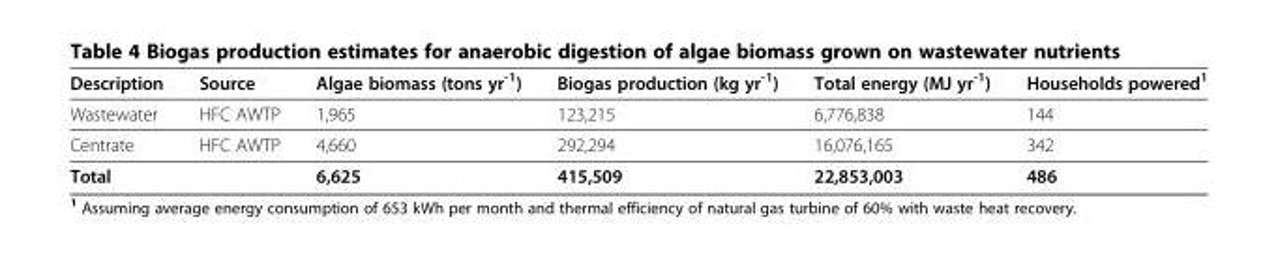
<table><thead><tr><td>Description</td><td>Source</td><td>Algae biomass (tons yr<sup>-1</sup>)</td><td>Biogas production (kg yr<sup>-1</sup>)</td><td>Total energy (MJ yr<sup>-1</sup>)</td><td>Households powered<sup>1</sup></td></tr></thead><tbody><tr><td>Wastewater</td><td>HFC AWTP</td><td>1,965</td><td>123,215</td><td>6,776,838</td><td>144</td></tr><tr><td>Centrate</td><td>HFC AWTP</td><td>4,660</td><td>292,294</td><td>16,076,165</td><td>342</td></tr><tr><td>Total</td><td></td><td>6,625</td><td>415,509</td><td>22,853,003</td><td>486</td></tr></tbody></table>